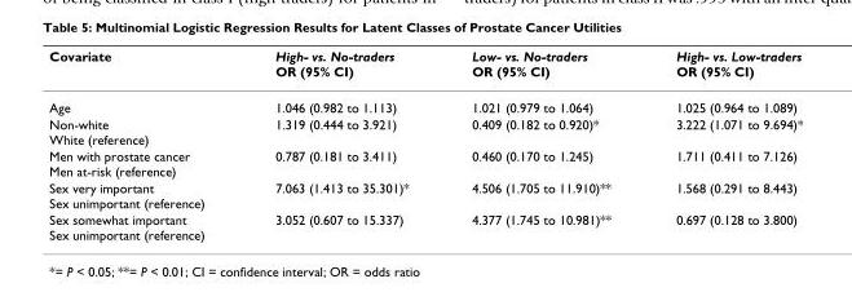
<table><thead><tr><td>Covariate</td><td>High- vs. No-traders OR (95% CI)</td><td>Low- vs. No-traders OR (95% CI)</td><td>High- vs. Low-traders OR (95% CI)</td></tr></thead><tbody><tr><td>Age</td><td>1.046 (0.982 to 1.113)</td><td>1.021 (0.979 to 1.064)</td><td>1.025 (0.964 to 1.089)</td></tr><tr><td>Non-white White (reference)</td><td>1.319 (0.444 to 3.921)</td><td>0.409 (0.182 to 0.920)*</td><td>3.222 (1.071 to 9.694)*</td></tr><tr><td>Men with prostate cancer Men at-risk (reference)</td><td>0.787 (0.181 to 3.411)</td><td>0.460 (0.170 to 1.245)</td><td>1.711 (0.411 to 7.126)</td></tr><tr><td>Sex very important Sex unimportant (reference)</td><td>7.063 (1.413 to 35.301)*</td><td>4.506 (1.705 to 11.910)**</td><td>1.568 (0.291 to 8.443)</td></tr><tr><td>Sex somewhat important Sex unimportant (reference)</td><td>3.052 (0.607 to 15.337)</td><td>4.377 (1.745 to 10.981)**</td><td>0.697 (0.128 to 3.800)</td></tr></tbody></table>